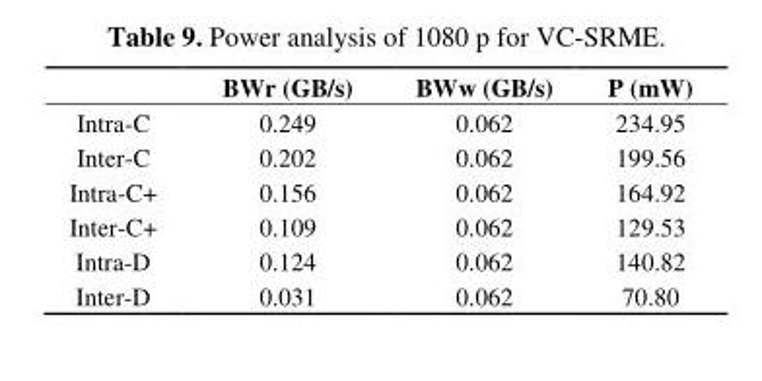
<table><thead><tr><td></td><td>BWr (GB/s)</td><td>BWw (GB/s)</td><td>P (mW)</td></tr></thead><tbody><tr><td>Intra-C</td><td>0.249</td><td>0.062</td><td>234.95</td></tr><tr><td>Inter-C</td><td>0.202</td><td>0.062</td><td>199.56</td></tr><tr><td>Intra-C+</td><td>0.156</td><td>0.062</td><td>164.92</td></tr><tr><td>Inter-C+</td><td>0.109</td><td>0.062</td><td>129.53</td></tr><tr><td>Intra-D</td><td>0.124</td><td>0.062</td><td>140.82</td></tr><tr><td>Inter-D</td><td>0.031</td><td>0.062</td><td>70.80</td></tr></tbody></table>